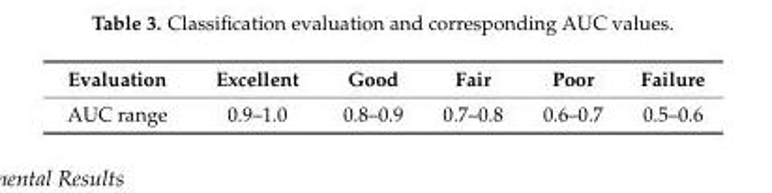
<table><thead><tr><td>Evaluation</td><td>Excellent</td><td>Good</td><td>Fair</td><td>Poor</td><td>Failure</td></tr></thead><tbody><tr><td>AUC range</td><td>0.9–1.0</td><td>0.8–0.9</td><td>0.7–0.8</td><td>0.6–0.7</td><td>0.5–0.6</td></tr></tbody></table>